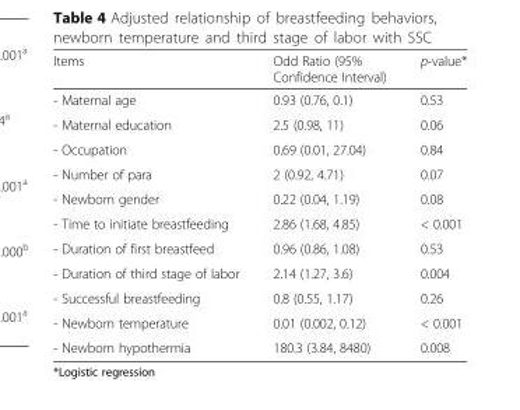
<table><thead><tr><td>Items</td><td>Odd Ratio (95% Confidence Interval)</td><td>p-value*</td></tr></thead><tbody><tr><td>- Maternal age</td><td>0.93 (0.76, 0.1)</td><td>0.53</td></tr><tr><td>- Maternal education</td><td>2.5 (0.98, 11)</td><td>0.06</td></tr><tr><td>- Occupation</td><td>0.69 (0.01, 27.04)</td><td>0.84</td></tr><tr><td>- Number of para</td><td>2 (0.92, 4.71)</td><td>0.07</td></tr><tr><td>- Newborn gender</td><td>0.22 (0.04, 1.19)</td><td>0.08</td></tr><tr><td>- Time to initiate breastfeeding</td><td>2.86 (1.68, 4.85)</td><td>&lt; 0.001</td></tr><tr><td>- Duration of first breastfeed</td><td>0.96 (0.86, 1.08)</td><td>0.53</td></tr><tr><td>- Duration of third stage of labor</td><td>2.14 (1.27, 3.6)</td><td>0.004</td></tr><tr><td>- Successful breastfeeding</td><td>0.8 (0.55, 1.17)</td><td>0.26</td></tr><tr><td>- Newborn temperature</td><td>0.01 (0.002, 0.12)</td><td>&lt; 0.001</td></tr><tr><td>- Newborn hypothermia</td><td>180.3 (3.84, 8480)</td><td>0.008</td></tr></tbody></table>